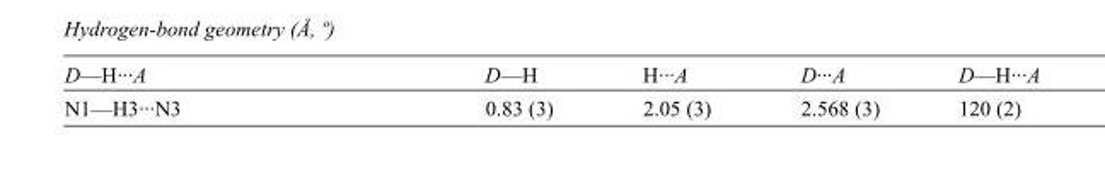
<table><tbody><tr><td>D—H···A</td><td>D—H</td><td>H···A</td><td>D···A</td><td>D—H···A</td></tr><tr><td>N1—H3···N3</td><td>0.83 (3)</td><td>2.05 (3)</td><td>2.568 (3)</td><td>120 (2)</td></tr></tbody></table>